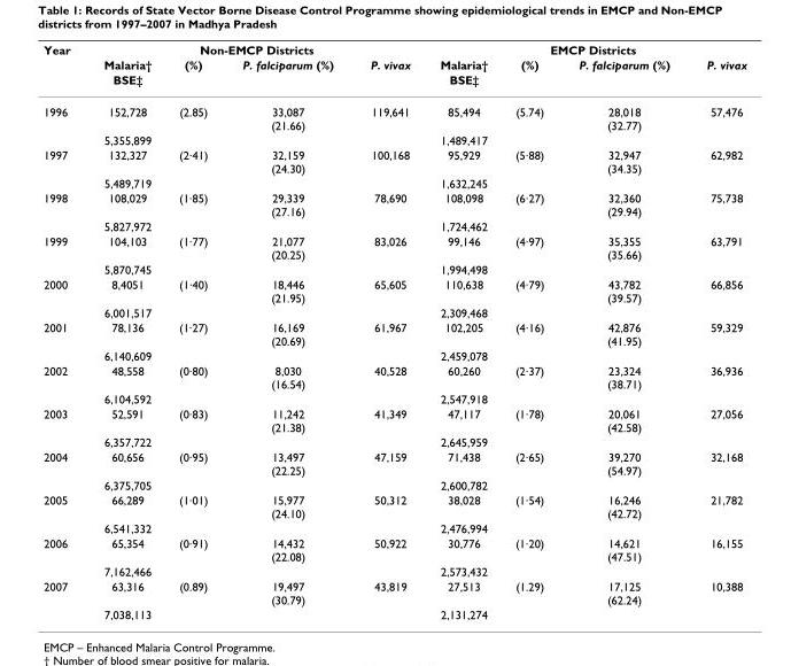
<table><thead><tr><td rowspan="3">Year</td><td colspan="4">Non-EMCP Districts</td><td colspan="4">EMCP Districts</td></tr><tr><td rowspan="2">Malaria† BSE‡</td><td rowspan="2">(%)</td><td rowspan="2">P. falciparum (%)</td><td rowspan="2">P. vivax</td><td rowspan="2">Malaria† BSE‡</td><td rowspan="2">(%)</td><td rowspan="2">P. falciparum (%)</td><td rowspan="2">P. vivax</td></tr><tr></tr></thead><tbody><tr><td rowspan="2">1996</td><td>152,728</td><td>(2.85)</td><td>33,087 (21.66)</td><td>119,641</td><td>85,494</td><td>(5.74)</td><td>28,018 (32.77)</td><td>57,476</td></tr><tr><td>5,355,899</td><td></td><td></td><td></td><td>1,489,417</td><td></td><td></td><td></td></tr><tr><td rowspan="2">1997</td><td>132,327</td><td>(2·41)</td><td>32,159 (24.30)</td><td>100,168</td><td>95,929</td><td>(5·88)</td><td>32,947 (34.35)</td><td>62,982</td></tr><tr><td>5,489,719</td><td></td><td></td><td></td><td>1,632,245</td><td></td><td></td><td></td></tr><tr><td rowspan="2">1998</td><td>108,029</td><td>(1·85)</td><td>29,339 (27.16)</td><td>78,690</td><td>108,098</td><td>(6·27)</td><td>32,360 (29.94)</td><td>75,738</td></tr><tr><td>5,827,972</td><td></td><td></td><td></td><td>1,724,462</td><td></td><td></td><td></td></tr><tr><td rowspan="2">1999</td><td>104,103</td><td>(1·77)</td><td>21,077 (20.25)</td><td>83,026</td><td>99,146</td><td>(4·97)</td><td>35,355 (35.66)</td><td>63,791</td></tr><tr><td>5,870,745</td><td></td><td></td><td></td><td>1,994,498</td><td></td><td></td><td></td></tr><tr><td rowspan="2">2000</td><td>8,4051</td><td>(1·40)</td><td>18,446 (21.95)</td><td>65,605</td><td>110,638</td><td>(4·79)</td><td>43,782 (39.57)</td><td>66,856</td></tr><tr><td>6,001,517</td><td></td><td></td><td></td><td>2,309,468</td><td></td><td></td><td></td></tr><tr><td rowspan="2">2001</td><td>78,136</td><td>(1·27)</td><td>16,169 (20.69)</td><td>61,967</td><td>102,205</td><td>(4·16)</td><td>42,876 (41.95)</td><td>59,329</td></tr><tr><td>6,140,609</td><td></td><td></td><td></td><td>2,459,078</td><td></td><td></td><td></td></tr><tr><td rowspan="2">2002</td><td>48,558</td><td>(0·80)</td><td>8,030 (16.54)</td><td>40,528</td><td>60,260</td><td>(2·37)</td><td>23,324 (38.71)</td><td>36,936</td></tr><tr><td>6,104,592</td><td></td><td></td><td></td><td>2,547,918</td><td></td><td></td><td></td></tr><tr><td rowspan="2">2003</td><td>52,591</td><td>(0·83)</td><td>11,242 (21.38)</td><td>41,349</td><td>47,117</td><td>(1·78)</td><td>20,061 (42.58)</td><td>27,056</td></tr><tr><td>6,357,722</td><td></td><td></td><td></td><td>2,645,959</td><td></td><td></td><td></td></tr><tr><td rowspan="2">2004</td><td>60,656</td><td>(0·95)</td><td>13,497 (22.25)</td><td>47,159</td><td>71,438</td><td>(2·65)</td><td>39,270 (54.97)</td><td>32,168</td></tr><tr><td>6,375,705</td><td></td><td></td><td></td><td>2,600,782</td><td></td><td></td><td></td></tr><tr><td rowspan="2">2005</td><td>66,289</td><td>(1·01)</td><td>15,977 (24.10)</td><td>50,312</td><td>38,028</td><td>(1·54)</td><td>16,246 (42.72)</td><td>21,782</td></tr><tr><td>6,541,332</td><td></td><td></td><td></td><td>2,476,994</td><td></td><td></td><td></td></tr><tr><td rowspan="2">2006</td><td>65,354</td><td>(0·91)</td><td>14,432 (22.08)</td><td>50,922</td><td>30,776</td><td>(1·20)</td><td>14,621 (47.51)</td><td>16,155</td></tr><tr><td>7,162,466</td><td></td><td></td><td></td><td>2,573,432</td><td></td><td></td><td></td></tr><tr><td rowspan="2">2007</td><td>63,316</td><td>(0.89)</td><td>19,497 (30.79)</td><td>43,819</td><td>27,513</td><td>(1.29)</td><td>17,125 (62.24)</td><td>10,388</td></tr><tr><td>7,038,113</td><td></td><td></td><td></td><td>2,131,274</td><td></td><td></td><td></td></tr></tbody></table>